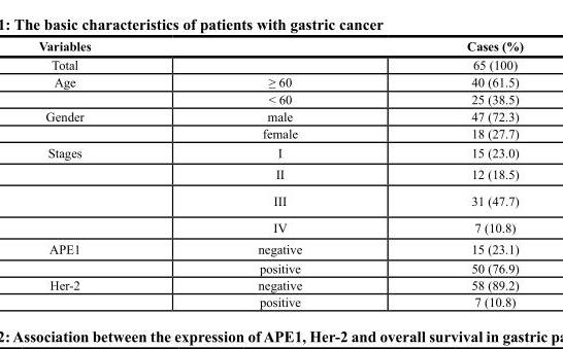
<table><thead><tr><td>Variables</td><td></td><td>Cases (%)</td></tr></thead><tbody><tr><td>Total</td><td></td><td>65 (100)</td></tr><tr><td rowspan="2">Age</td><td>≥ 60</td><td>40 (61.5)</td></tr><tr><td>&lt; 60</td><td>25 (38.5)</td></tr><tr><td rowspan="2">Gender</td><td>male</td><td>47 (72.3)</td></tr><tr><td>female</td><td>18 (27.7)</td></tr><tr><td rowspan="4">Stages</td><td>I</td><td>15 (23.0)</td></tr><tr><td>II</td><td>12 (18.5)</td></tr><tr><td>III</td><td>31 (47.7)</td></tr><tr><td>IV</td><td>7 (10.8)</td></tr><tr><td rowspan="2">APE1</td><td>negative</td><td>15 (23.1)</td></tr><tr><td>positive</td><td>50 (76.9)</td></tr><tr><td rowspan="2">Her-2</td><td>negative</td><td>58 (89.2)</td></tr><tr><td>positive</td><td>7 (10.8)</td></tr></tbody></table>